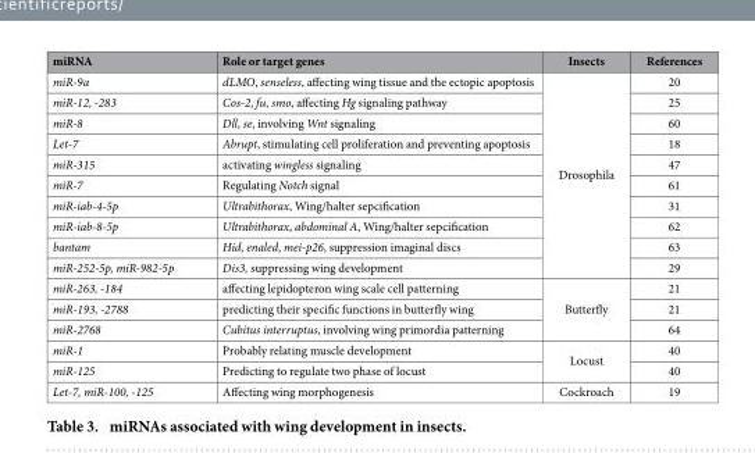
<table><thead><tr><td>miRNA</td><td>Role or target genes</td><td>Insects</td><td>References</td></tr></thead><tbody><tr><td>miR-9a</td><td>dLMO, senseless, affecting wing tissue and the ectopic apoptosis</td><td rowspan="10">Drosophila</td><td>20</td></tr><tr><td>miR-12, -283</td><td>Cos-2, fu, smo, affecting Hg signaling pathway</td><td>25</td></tr><tr><td>miR-8</td><td>Dll, se, involving Wnt signaling</td><td>60</td></tr><tr><td>Let-7</td><td>Abrupt, stimulating cell proliferation and preventing apoptosis</td><td>18</td></tr><tr><td>miR-315</td><td>activating wingless signaling</td><td>47</td></tr><tr><td>miR-7</td><td>Regulating Notch signal</td><td>61</td></tr><tr><td>miR-iab-4-5p</td><td>Ultrabithorax, Wing/halter sepcification</td><td>31</td></tr><tr><td>miR-iab-8-5p</td><td>Ultrabithorax, abdominal A, Wing/halter sepcification</td><td>62</td></tr><tr><td>bantam</td><td>Hid, enaled, mei-p26, suppression imaginal discs</td><td>63</td></tr><tr><td>miR-252-5p, miR-982-5p</td><td>Dis3, suppressing wing development</td><td>29</td></tr><tr><td>miR-263, -184</td><td>affecting lepidopteron wing scale cell patterning</td><td rowspan="3">Butterfly</td><td>21</td></tr><tr><td>miR-193, -2788</td><td>predicting their specific functions in butterfly wing</td><td>21</td></tr><tr><td>miR-2768</td><td>Cubitus interruptus, involving wing primordia patterning</td><td>64</td></tr><tr><td>miR-1</td><td>Probably relating muscle development</td><td rowspan="2">Locust</td><td>40</td></tr><tr><td>miR-125</td><td>Predicting to regulate two phase of locust</td><td>40</td></tr><tr><td>Let-7, miR-100, -125</td><td>Affecting wing morphogenesis</td><td>Cockroach</td><td>19</td></tr></tbody></table>